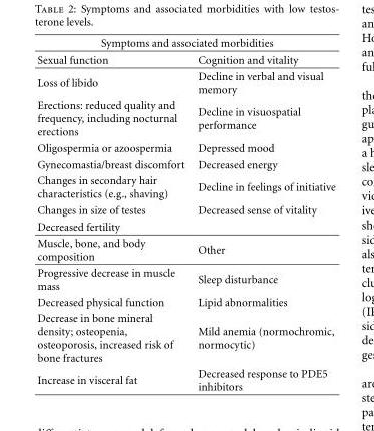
<table><thead><tr><td colspan="2">Symptoms and associated morbidities</td></tr><tr><td>Sexual function</td><td>Cognition and vitality</td></tr></thead><tbody><tr><td>Loss of libido</td><td>Decline in verbal and visual memory</td></tr><tr><td>Erections: reduced quality and frequency, including nocturnal erections</td><td>Decline in visuospatial performance</td></tr><tr><td>Oligospermia or azoospermia</td><td>Depressed mood</td></tr><tr><td>Gynecomastia/breast discomfort</td><td>Decreased energy</td></tr><tr><td>Changes in secondary hair characteristics (e.g., shaving)</td><td>Decline in feelings of initiative</td></tr><tr><td>Changes in size of testes</td><td>Decreased sense of vitality</td></tr><tr><td colspan="2">Decreased fertility</td></tr><tr><td>Muscle, bone, and body composition</td><td>Other</td></tr><tr><td>Progressive decrease in muscle mass</td><td>Sleep disturbance</td></tr><tr><td>Decreased physical function</td><td>Lipid abnormalities</td></tr><tr><td>Decrease in bone mineral density; osteopenia, osteoporosis, increased risk of bone fractures</td><td>Mild anemia (normochromic, normocytic)</td></tr><tr><td>Increase in visceral fat</td><td>Decreased response to PDE5 inhibitors</td></tr></tbody></table>